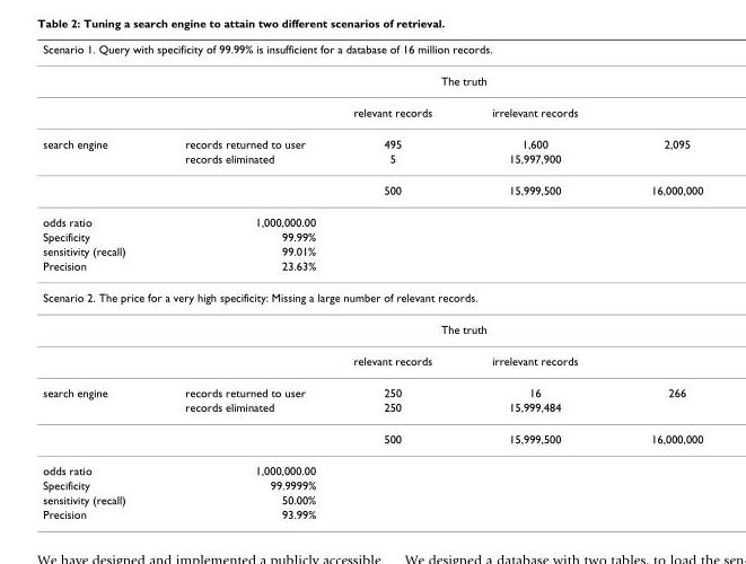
<table><thead><tr><td colspan="5">Scenario 1. Query with specificity of 99.99% is insufficient for a database of 16 million records.</td></tr><tr><td rowspan="2"></td><td rowspan="2"></td><td colspan="2">The truth</td><td rowspan="2"></td></tr><tr><td>relevant records</td><td>irrelevant records</td></tr></thead><tbody><tr><td rowspan="3">search engine</td><td>records returned to user</td><td>495</td><td>1,600</td><td>2,095</td></tr><tr><td>records eliminated</td><td>5</td><td>15,997,900</td><td></td></tr><tr><td></td><td>500</td><td>15,999,500</td><td>16,000,000</td></tr><tr><td>odds ratio</td><td>1,000,000.00</td><td></td><td></td><td></td></tr><tr><td>Specificity</td><td>99.99%</td><td></td><td></td><td></td></tr><tr><td>sensitivity (recall)</td><td>99.01%</td><td></td><td></td><td></td></tr><tr><td>Precision</td><td>23.63%</td><td></td><td></td><td></td></tr><tr><td colspan="5">Scenario 2. The price for a very high specificity: Missing a large number of relevant records.</td></tr><tr><td></td><td></td><td colspan="2">The truth</td><td></td></tr><tr><td></td><td></td><td>relevant records</td><td>irrelevant records</td><td></td></tr><tr><td rowspan="3">search engine</td><td>records returned to user</td><td>250</td><td>16</td><td>266</td></tr><tr><td>records eliminated</td><td>250</td><td>15,999,484</td><td></td></tr><tr><td></td><td>500</td><td>15,999,500</td><td>16,000,000</td></tr><tr><td>odds ratio</td><td>1,000,000.00</td><td></td><td></td><td></td></tr><tr><td>Specificity</td><td>99.9999%</td><td></td><td></td><td></td></tr><tr><td>sensitivity (recall)</td><td>50.00%</td><td></td><td></td><td></td></tr><tr><td>Precision</td><td>93.99%</td><td></td><td></td><td></td></tr></tbody></table>